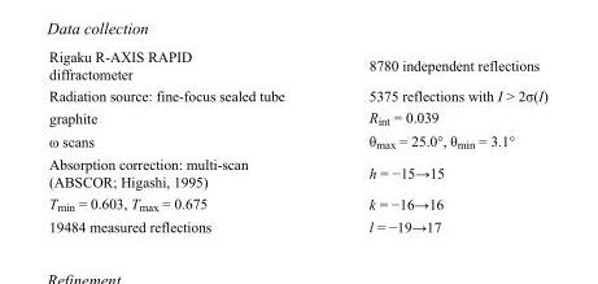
<table><tbody><tr><td>Rigaku R-AXIS RAPID diffractometer</td><td>8780 independent reflections</td></tr><tr><td>Radiation source: fine-focus sealed tube</td><td>5375 reflections with I &gt; 2σ(I)</td></tr><tr><td>graphite</td><td>R<sub>int</sub> = 0.039</td></tr><tr><td>ω scans</td><td>θ<sub>max</sub> = 25.0°, θ<sub>min</sub> = 3.1°</td></tr><tr><td>Absorption correction: multi-scan (ABSCOR; Higashi, 1995)</td><td>h = −15→15</td></tr><tr><td>T<sub>min</sub> = 0.603, T<sub>max</sub> = 0.675</td><td>k = −16→16</td></tr><tr><td>19484 measured reflections</td><td>l = −19→17</td></tr></tbody></table>